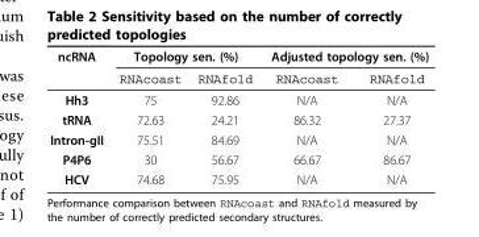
<table><thead><tr><td rowspan="2">ncRNA</td><td colspan="2">Topology sen. (%)</td><td colspan="2">Adjusted topology sen. (%)</td></tr><tr><td>RNAcoast</td><td>RNAfold</td><td>RNAcoast</td><td>RNAfold</td></tr></thead><tbody><tr><td>Hh3</td><td>75</td><td>92.86</td><td>N/A</td><td>N/A</td></tr><tr><td>tRNA</td><td>72.63</td><td>24.21</td><td>86.32</td><td>27.37</td></tr><tr><td>Intron-gII</td><td>75.51</td><td>84.69</td><td>N/A</td><td>N/A</td></tr><tr><td>P4P6</td><td>30</td><td>56.67</td><td>66.67</td><td>86.67</td></tr><tr><td>HCV</td><td>74.68</td><td>75.95</td><td>N/A</td><td>N/A</td></tr></tbody></table>